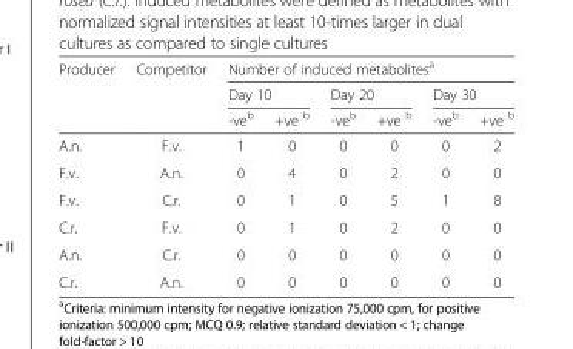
<table><thead><tr><td rowspan="3">Producer</td><td rowspan="3">Competitor</td><td colspan="6">Number of induced metabolites<sup>a</sup></td></tr><tr><td colspan="2">Day 10</td><td colspan="2">Day 20</td><td colspan="2">Day 30</td></tr><tr><td>-ve<sup>b</sup></td><td>+ve <sup>b</sup></td><td>-ve<sup>b</sup></td><td>+ve <sup>b</sup></td><td>-ve<sup>b</sup></td><td>+ve <sup>b</sup></td></tr></thead><tbody><tr><td>A.n.</td><td>F.v.</td><td>1</td><td>0</td><td>0</td><td>0</td><td>0</td><td>2</td></tr><tr><td>F.v.</td><td>A.n.</td><td>0</td><td>4</td><td>0</td><td>2</td><td>0</td><td>0</td></tr><tr><td>F.v.</td><td>C.r.</td><td>0</td><td>1</td><td>0</td><td>5</td><td>1</td><td>8</td></tr><tr><td>C.r.</td><td>F.v.</td><td>0</td><td>1</td><td>0</td><td>2</td><td>0</td><td>0</td></tr><tr><td>A.n.</td><td>C.r.</td><td>0</td><td>0</td><td>0</td><td>0</td><td>0</td><td>0</td></tr><tr><td>C.r.</td><td>A.n.</td><td>0</td><td>0</td><td>0</td><td>0</td><td>0</td><td>0</td></tr></tbody></table>